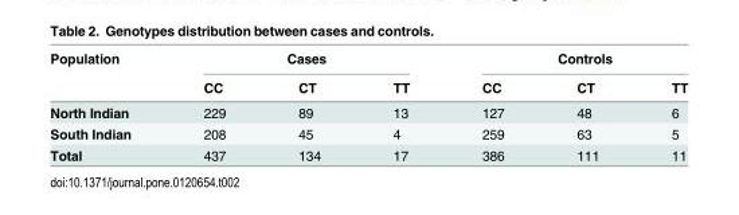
<table><thead><tr><td rowspan="2">Population</td><td colspan="3">Cases</td><td colspan="3">Controls</td></tr><tr><td>CC</td><td>CT</td><td>TT</td><td>CC</td><td>CT</td><td>TT</td></tr></thead><tbody><tr><td>North Indian</td><td>229</td><td>89</td><td>13</td><td>127</td><td>48</td><td>6</td></tr><tr><td>South Indian</td><td>208</td><td>45</td><td>4</td><td>259</td><td>63</td><td>5</td></tr><tr><td>Total</td><td>437</td><td>134</td><td>17</td><td>386</td><td>111</td><td>11</td></tr></tbody></table>